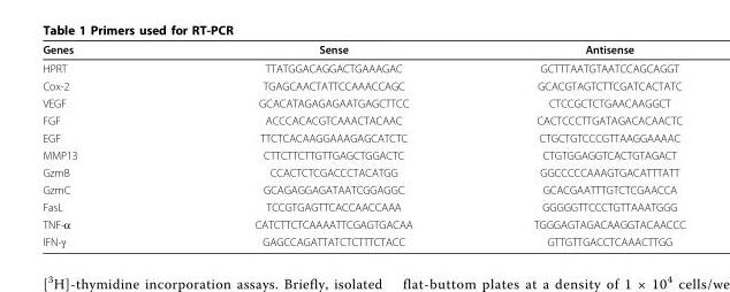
<table><thead><tr><td>Genes</td><td>Sense</td><td>Antisense</td></tr></thead><tbody><tr><td>HPRT</td><td>TTATGGACAGGACTGAAAGAC</td><td>GCTTTAATGTAATCCAGCAGGT</td></tr><tr><td>Cox-2</td><td>TGAGCAACTATTCCAAACCAGC</td><td>GCACGTAGTCTTCGATCACTATC</td></tr><tr><td>VEGF</td><td>GCACATAGAGAGAATGAGCTTCC</td><td>CTCCGCTCTGAACAAGGCT</td></tr><tr><td>FGF</td><td>ACCCACACGTCAAACTACAAC</td><td>CACTCCCTTGATAGACACAACTC</td></tr><tr><td>EGF</td><td>TTCTCACAAGGAAAGAGCATCTC</td><td>CTGCTGTCCCGTTAAGGAAAAC</td></tr><tr><td>MMP13</td><td>CTTCTTCTTGTTGAGCTGGACTC</td><td>CTGTGGAGGTCACTGTAGACT</td></tr><tr><td>GzmB</td><td>CCACTCTCGACCCTACATGG</td><td>GGCCCCCAAAGTGACATTTATT</td></tr><tr><td>GzmC</td><td>GCAGAGGAGATAATCGGAGGC</td><td>GCACGAATTTGTCTCGAACCA</td></tr><tr><td>FasL</td><td>TCCGTGAGTTCACCAACCAAA</td><td>GGGGGTTCCCTGTTAAATGGG</td></tr><tr><td>TNF-α</td><td>CATCTTCTCAAAATTCGAGTGACAA</td><td>TGGGAGTAGACAAGGTACAACCC</td></tr><tr><td>IFN-γ</td><td>GAGCCAGATTATCTCTTTCTACC</td><td>GTTGTTGACCTCAAACTTGG</td></tr></tbody></table>